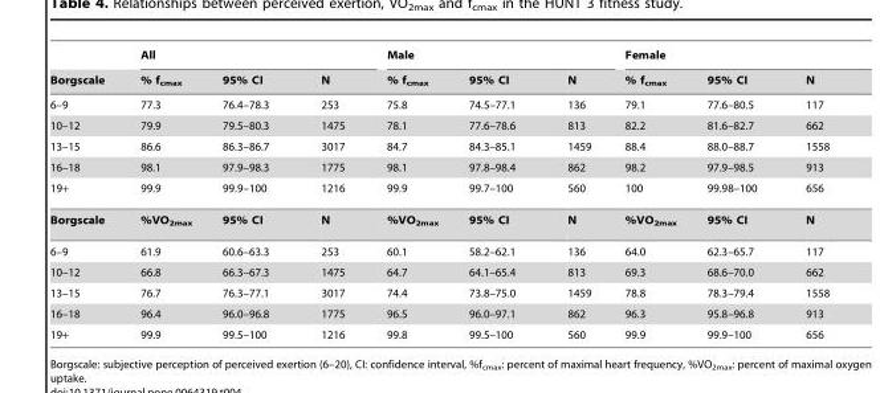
<table><thead><tr><td rowspan="2">Borgscale</td><td colspan="3">All</td><td colspan="3">Male</td><td colspan="3">Female</td></tr><tr><td>% f<sub>cmax</sub></td><td>95% CI</td><td>N</td><td>% f<sub>cmax</sub></td><td>95% CI</td><td>N</td><td>% f<sub>cmax</sub></td><td>95% CI</td><td>N</td></tr></thead><tbody><tr><td>6–9</td><td>77.3</td><td>76.4–78.3</td><td>253</td><td>75.8</td><td>74.5–77.1</td><td>136</td><td>79.1</td><td>77.6–80.5</td><td>117</td></tr><tr><td>10–12</td><td>79.9</td><td>79.5–80.3</td><td>1475</td><td>78.1</td><td>77.6–78.6</td><td>813</td><td>82.2</td><td>81.6–82.7</td><td>662</td></tr><tr><td>13–15</td><td>86.6</td><td>86.3–86.7</td><td>3017</td><td>84.7</td><td>84.3–85.1</td><td>1459</td><td>88.4</td><td>88.0–88.7</td><td>1558</td></tr><tr><td>16–18</td><td>98.1</td><td>97.9–98.3</td><td>1775</td><td>98.1</td><td>97.8–98.4</td><td>862</td><td>98.2</td><td>97.9–98.5</td><td>913</td></tr><tr><td>19+</td><td>99.9</td><td>99.9–100</td><td>1216</td><td>99.9</td><td>99.7–100</td><td>560</td><td>100</td><td>99.98–100</td><td>656</td></tr><tr><td>Borgscale</td><td>%VO<sub>2max</sub></td><td>95% CI</td><td>N</td><td>%VO<sub>2max</sub></td><td>95% CI</td><td>N</td><td>%VO<sub>2max</sub></td><td>95% CI</td><td>N</td></tr><tr><td>6–9</td><td>61.9</td><td>60.6–63.3</td><td>253</td><td>60.1</td><td>58.2–62.1</td><td>136</td><td>64.0</td><td>62.3–65.7</td><td>117</td></tr><tr><td>10–12</td><td>66.8</td><td>66.3–67.3</td><td>1475</td><td>64.7</td><td>64.1–65.4</td><td>813</td><td>69.3</td><td>68.6–70.0</td><td>662</td></tr><tr><td>13–15</td><td>76.7</td><td>76.3–77.1</td><td>3017</td><td>74.4</td><td>73.8–75.0</td><td>1459</td><td>78.8</td><td>78.3–79.4</td><td>1558</td></tr><tr><td>16–18</td><td>96.4</td><td>96.0–96.8</td><td>1775</td><td>96.5</td><td>96.0–97.1</td><td>862</td><td>96.3</td><td>95.8–96.8</td><td>913</td></tr><tr><td>19+</td><td>99.9</td><td>99.5–100</td><td>1216</td><td>99.8</td><td>99.5–100</td><td>560</td><td>99.9</td><td>99.9–100</td><td>656</td></tr></tbody></table>